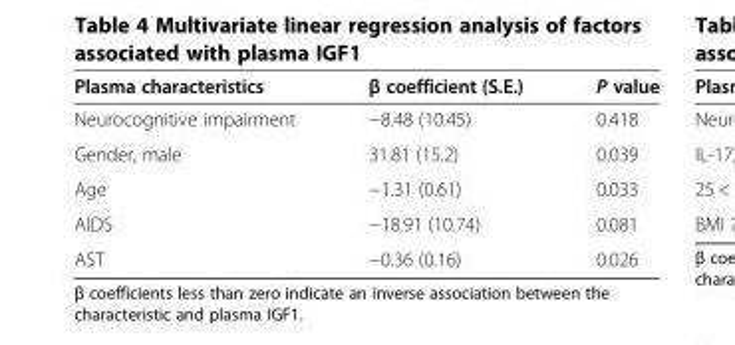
<table><thead><tr><td>Plasma characteristics</td><td>β coefficient (S.E.)</td><td>P value</td></tr></thead><tbody><tr><td>Neurocognitive impairment</td><td>−8.48 (10.45)</td><td>0.418</td></tr><tr><td>Gender, male</td><td>31.81 (15.2)</td><td>0.039</td></tr><tr><td>Age</td><td>−1.31 (0.61)</td><td>0.033</td></tr><tr><td>AIDS</td><td>−18.91 (10.74)</td><td>0.081</td></tr><tr><td>AST</td><td>−0.36 (0.16)</td><td>0.026</td></tr></tbody></table>